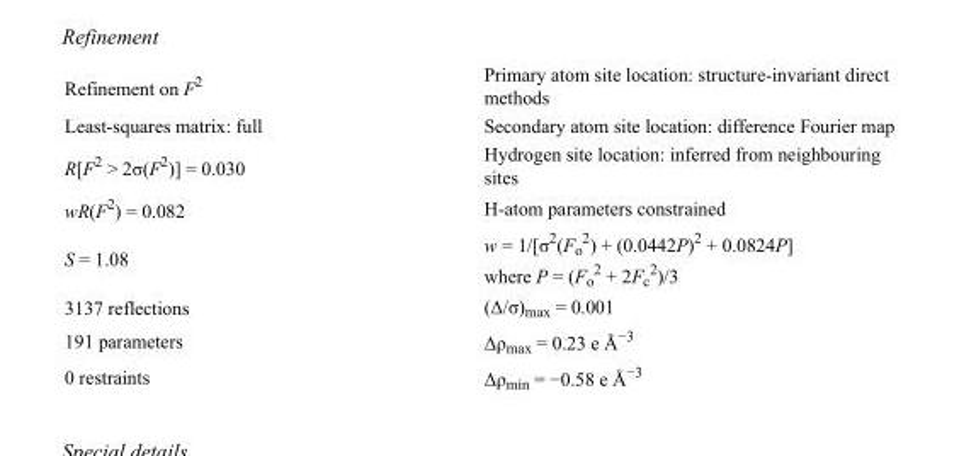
<table><tbody><tr><td>Refinement on F<sup>2</sup></td><td>Primary atom site location: structure-invariant direct methods</td></tr><tr><td>Least-squares matrix: full</td><td>Secondary atom site location: difference Fourier map</td></tr><tr><td>R[F<sup>2</sup> &gt; 2σ(F<sup>2</sup>)] = 0.030</td><td>Hydrogen site location: inferred from neighbouring sites</td></tr><tr><td>wR(F<sup>2</sup>) = 0.082</td><td>H-atom parameters constrained</td></tr><tr><td>S = 1.08</td><td>w = 1/[σ<sup>2</sup>(F<sub>o</sub> <sup>2</sup>) + (0.0442P)<sup>2</sup> + 0.0824P] where P = (F<sub>o</sub> <sup>2</sup> + 2F<sub>c</sub> <sup>2</sup>)/3</td></tr><tr><td>3137 reflections</td><td>(Δ/σ)<sub>max</sub> = 0.001</td></tr><tr><td>191 parameters</td><td>Δρ<sub>max</sub> = 0.23 e Å<sup>−3</sup></td></tr><tr><td>0 restraints</td><td>Δρ<sub>min</sub> = −0.58 e Å<sup>−3</sup></td></tr></tbody></table>